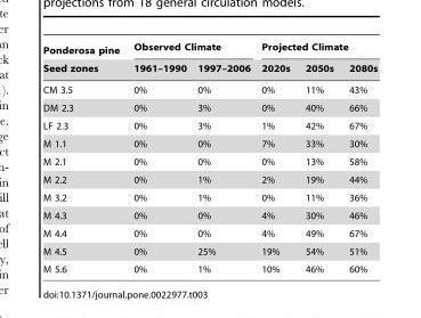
<table><thead><tr><td rowspan="2">Ponderosa pine Seed zones</td><td colspan="2">Observed Climate</td><td colspan="3">Projected Climate</td></tr><tr><td>1961–1990</td><td>1997–2006</td><td>2020s</td><td>2050s</td><td>2080s</td></tr></thead><tbody><tr><td>CM 3.5</td><td>0%</td><td>0%</td><td>0%</td><td>11%</td><td>43%</td></tr><tr><td>DM 2.3</td><td>0%</td><td>3%</td><td>0%</td><td>40%</td><td>66%</td></tr><tr><td>LF 2.3</td><td>0%</td><td>3%</td><td>1%</td><td>42%</td><td>67%</td></tr><tr><td>M 1.1</td><td>0%</td><td>0%</td><td>7%</td><td>33%</td><td>30%</td></tr><tr><td>M 2.1</td><td>0%</td><td>0%</td><td>0%</td><td>13%</td><td>58%</td></tr><tr><td>M 2.2</td><td>0%</td><td>1%</td><td>2%</td><td>19%</td><td>44%</td></tr><tr><td>M 3.2</td><td>0%</td><td>1%</td><td>0%</td><td>11%</td><td>36%</td></tr><tr><td>M 4.3</td><td>0%</td><td>0%</td><td>4%</td><td>30%</td><td>46%</td></tr><tr><td>M 4.4</td><td>0%</td><td>0%</td><td>4%</td><td>49%</td><td>67%</td></tr><tr><td>M 4.5</td><td>0%</td><td>25%</td><td>19%</td><td>54%</td><td>51%</td></tr><tr><td>M 5.6</td><td>0%</td><td>1%</td><td>10%</td><td>46%</td><td>60%</td></tr></tbody></table>